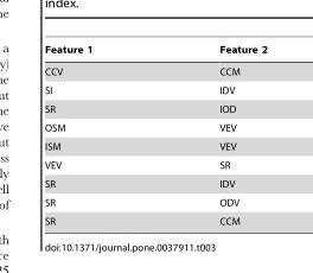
<table><thead><tr><td>Feature 1</td><td>Feature 2</td></tr></thead><tbody><tr><td>CCV</td><td>CCM</td></tr><tr><td>SI</td><td>IDV</td></tr><tr><td>SR</td><td>IOD</td></tr><tr><td>OSM</td><td>VEV</td></tr><tr><td>ISM</td><td>VEV</td></tr><tr><td>VEV</td><td>SR</td></tr><tr><td>SR</td><td>IDV</td></tr><tr><td>SR</td><td>ODV</td></tr><tr><td>SR</td><td>CCM</td></tr></tbody></table>